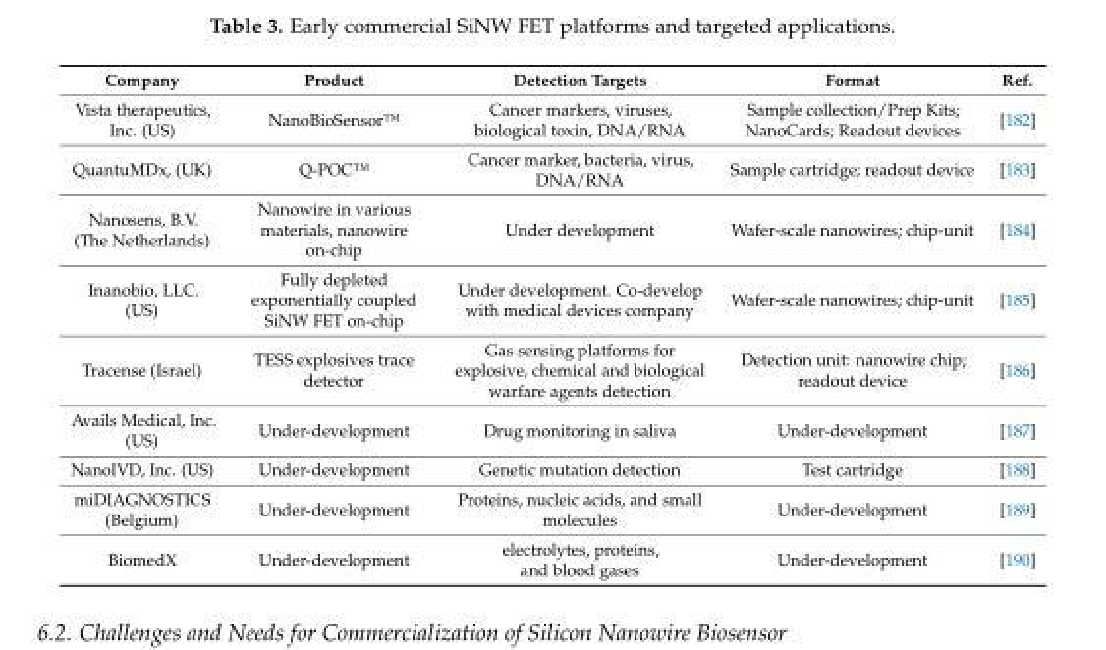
<table><thead><tr><td>Company</td><td>Product</td><td>Detection Targets</td><td>Format</td><td>Ref.</td></tr></thead><tbody><tr><td>Vista therapeutics, Inc. (US)</td><td>NanoBioSensor™</td><td>Cancer markers, viruses, biological toxin, DNA/RNA</td><td>Sample collection/Prep Kits; NanoCards; Readout devices</td><td>[182]</td></tr><tr><td>QuantuMDx, (UK)</td><td>Q-POC™</td><td>Cancer marker, bacteria, virus, DNA/RNA</td><td>Sample cartridge; readout device</td><td>[183]</td></tr><tr><td>Nanosens, B.V. (The Netherlands)</td><td>Nanowire in various materials, nanowire on-chip</td><td>Under development</td><td>Wafer-scale nanowires; chip-unit</td><td>[184]</td></tr><tr><td>Inanobio, LLC. (US)</td><td>Fully depleted exponentially coupled SiNW FET on-chip</td><td>Under development. Co-develop with medical devices company</td><td>Wafer-scale nanowires; chip-unit</td><td>[185]</td></tr><tr><td>Tracense (Israel)</td><td>TESS explosives trace detector</td><td>Gas sensing platforms for explosive, chemical and biological warfare agents detection</td><td>Detection unit: nanowire chip; readout device</td><td>[186]</td></tr><tr><td>Avails Medical, Inc. (US)</td><td>Under-development</td><td>Drug monitoring in saliva</td><td>Under-development</td><td>[187]</td></tr><tr><td>NanoIVD, Inc. (US)</td><td>Under-development</td><td>Genetic mutation detection</td><td>Test cartridge</td><td>[188]</td></tr><tr><td>miDIAGNOSTICS (Belgium)</td><td>Under-development</td><td>Proteins, nucleic acids, and small molecules</td><td>Under-development</td><td>[189]</td></tr><tr><td>BiomedX</td><td>Under-development</td><td>electrolytes, proteins, and blood gases</td><td>Under-development</td><td>[190]</td></tr></tbody></table>